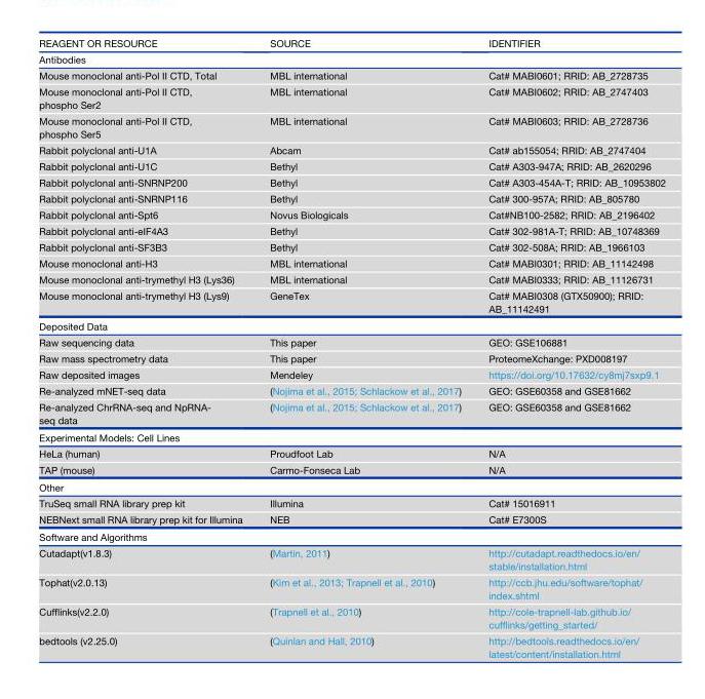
<table><thead><tr><td>REAGENT OR RESOURCE</td><td>SOURCE</td><td>IDENTIFIER</td></tr></thead><tbody><tr><td colspan="3">Antibodies</td></tr><tr><td>Mouse monoclonal anti-Pol II CTD, Total</td><td>MBL international</td><td>Cat# MABI0601; RRID: AB_2728735</td></tr><tr><td>Mouse monoclonal anti-Pol II CTD, phospho Ser2</td><td>MBL international</td><td>Cat# MABI0602; RRID: AB_2747403</td></tr><tr><td>Mouse monoclonal anti-Pol II CTD, phospho Ser5</td><td>MBL international</td><td>Cat# MABI0603; RRID: AB_2728736</td></tr><tr><td>Rabbit polyclonal anti-U1A</td><td>Abcam</td><td>Cat# ab155054; RRID: AB_2747404</td></tr><tr><td>Rabbit polyclonal anti-U1C</td><td>Bethyl</td><td>Cat# A303-947A; RRID: AB_2620296</td></tr><tr><td>Rabbit polyclonal anti-SNRNP200</td><td>Bethyl</td><td>Cat# A303-454A-T; RRID: AB_10953802</td></tr><tr><td>Rabbit polyclonal anti-SNRNP116</td><td>Bethyl</td><td>Cat# 300-957A; RRID: AB_805780</td></tr><tr><td>Rabbit polyclonal anti-Spt6</td><td>Novus Biologicals</td><td>Cat#NB100-2582; RRID: AB_2196402</td></tr><tr><td>Rabbit polyclonal anti-eIF4A3</td><td>Bethyl</td><td>Cat# 302-981A-T; RRID: AB_10748369</td></tr><tr><td>Rabbit polyclonal anti-SF3B3</td><td>Bethyl</td><td>Cat# 302-508A; RRID: AB_1966103</td></tr><tr><td>Mouse monoclonal anti-H3</td><td>MBL international</td><td>Cat# MABI0301; RRID: AB_11142498</td></tr><tr><td>Mouse monoclonal anti-trymethyl H3 (Lys36)</td><td>MBL international</td><td>Cat# MABI0333; RRID: AB_11126731</td></tr><tr><td>Mouse monoclonal anti-trymethyl H3 (Lys9)</td><td>GeneTex</td><td>Cat# MABI0308 (GTX50900); RRID: AB_11142491</td></tr><tr><td colspan="3">Deposited Data</td></tr><tr><td>Raw sequencing data</td><td>This paper</td><td>GEO: GSE106881</td></tr><tr><td>Raw mass spectrometry data</td><td>This paper</td><td>ProteomeXchange: PXD008197</td></tr><tr><td>Raw deposited images</td><td>Mendeley</td><td>https://doi.org/10.17632/cy8mj7sxp9.1</td></tr><tr><td>Re-analyzed mNET-seq data</td><td>(Nojima et al., 2015; Schlackow et al., 2017)</td><td>GEO: GSE60358 and GSE81662</td></tr><tr><td>Re-analyzed ChrRNA-seq and NpRNA- seq data</td><td>(Nojima et al., 2015; Schlackow et al., 2017)</td><td>GEO: GSE60358 and GSE81662</td></tr><tr><td colspan="3">Experimental Models: Cell Lines</td></tr><tr><td>HeLa (human)</td><td>Proudfoot Lab</td><td>N/A</td></tr><tr><td>TAP (mouse)</td><td>Carmo-Fonseca Lab</td><td>N/A</td></tr><tr><td colspan="3">Other</td></tr><tr><td>TruSeq small RNA library prep kit</td><td>Illumina</td><td>Cat# 15016911</td></tr><tr><td>NEBNext small RNA library prep kit for Illumina</td><td>NEB</td><td>Cat# E7300S</td></tr><tr><td colspan="3">Software and Algorithms</td></tr><tr><td>Cutadapt(v1.8.3)</td><td>(Martin, 2011)</td><td>http://cutadapt.readthedocs.io/en/ stable/installation.html</td></tr><tr><td>Tophat(v2.0.13)</td><td>(Kim et al., 2013; Trapnell et al., 2010)</td><td>http://ccb.jhu.edu/software/tophat/ index.shtml</td></tr><tr><td>Cufflinks(v2.2.0)</td><td>(Trapnell et al., 2010)</td><td>http://cole-trapnell-lab.github.io/ cufflinks/getting_started/</td></tr><tr><td>bedtools (v2.25.0)</td><td>(Quinlan and Hall, 2010)</td><td>http://bedtools.readthedocs.io/en/ latest/content/installation.html</td></tr></tbody></table>